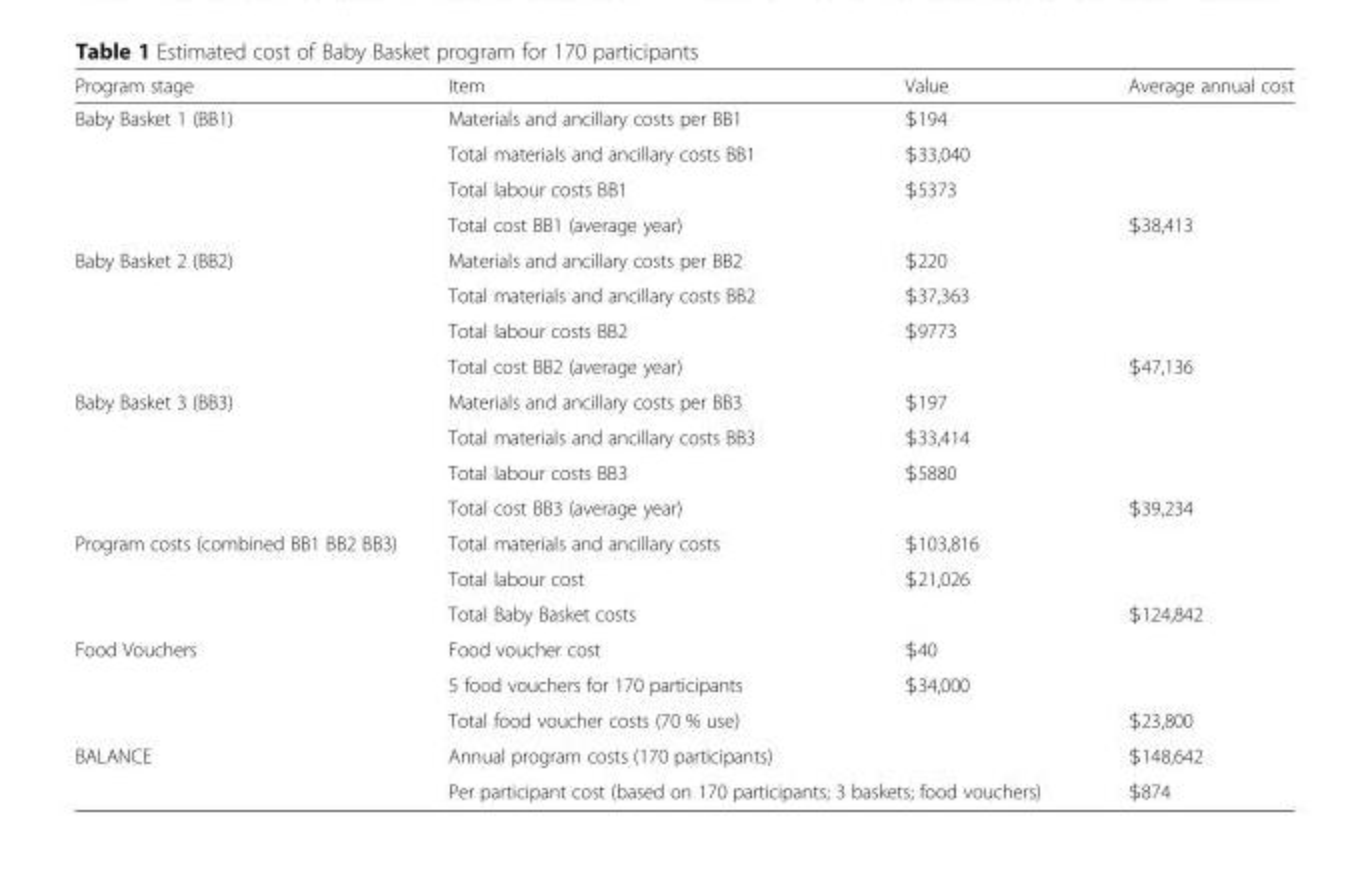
<table><thead><tr><td>Program stage</td><td>Item</td><td>Value</td><td>Average annual cost</td></tr></thead><tbody><tr><td rowspan="4">Baby Basket 1 (BB1)</td><td>Materials and ancillary costs per BB1</td><td>$194</td><td></td></tr><tr><td>Total materials and ancillary costs BB1</td><td>$33,040</td><td></td></tr><tr><td>Total labour costs BB1</td><td>$5373</td><td></td></tr><tr><td>Total cost BB1 (average year)</td><td></td><td>$38,413</td></tr><tr><td rowspan="4">Baby Basket 2 (BB2)</td><td>Materials and ancillary costs per BB2</td><td>$220</td><td></td></tr><tr><td>Total materials and ancillary costs BB2</td><td>$37,363</td><td></td></tr><tr><td>Total labour costs BB2</td><td>$9773</td><td></td></tr><tr><td>Total cost BB2 (average year)</td><td></td><td>$47,136</td></tr><tr><td rowspan="4">Baby Basket 3 (BB3)</td><td>Materials and ancillary costs per BB3</td><td>$197</td><td></td></tr><tr><td>Total materials and ancillary costs BB3</td><td>$33,414</td><td></td></tr><tr><td>Total labour costs BB3</td><td>$5880</td><td></td></tr><tr><td>Total cost BB3 (average year)</td><td></td><td>$39,234</td></tr><tr><td rowspan="3">Program costs (combined BB1 BB2 BB3)</td><td>Total materials and ancillary costs</td><td>$103,816</td><td></td></tr><tr><td>Total labour cost</td><td>$21,026</td><td></td></tr><tr><td>Total Baby Basket costs</td><td></td><td>$124,842</td></tr><tr><td rowspan="3">Food Vouchers</td><td>Food voucher cost</td><td>$40</td><td></td></tr><tr><td>5 food vouchers for 170 participants</td><td>$34,000</td><td></td></tr><tr><td>Total food voucher costs (70 % use)</td><td></td><td>$23,800</td></tr><tr><td rowspan="2">BALANCE</td><td colspan="2">Annual program costs (170 participants)</td><td>$148,642</td></tr><tr><td colspan="2">Per participant cost (based on 170 participants; 3 baskets; food vouchers)</td><td>$874</td></tr></tbody></table>